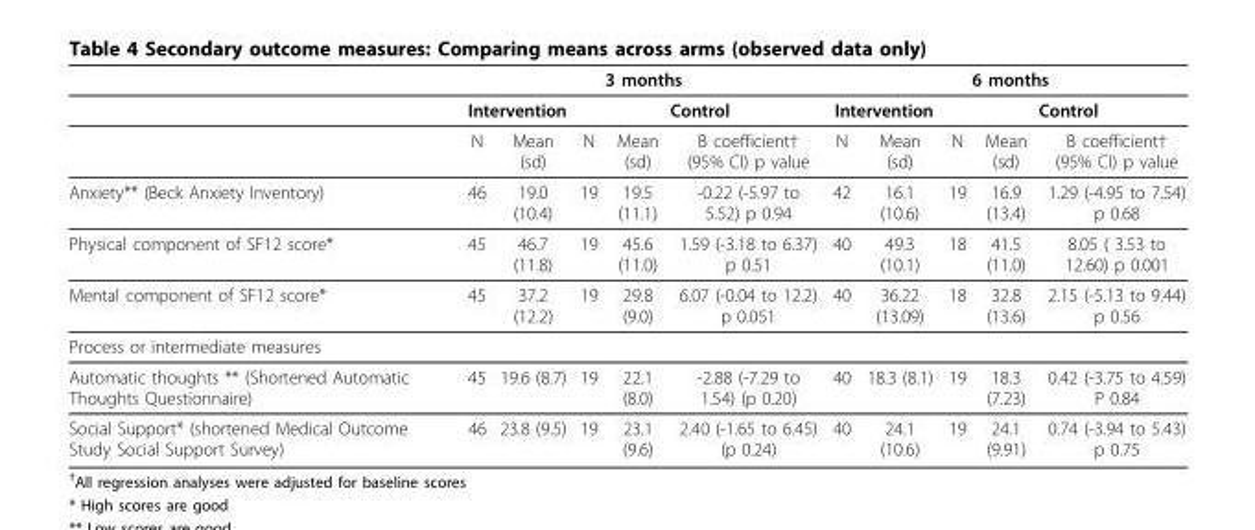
<table><thead><tr><td rowspan="3"></td><td colspan="5">3 months</td><td colspan="5">6 months</td></tr><tr><td colspan="2">Intervention</td><td colspan="3">Control</td><td colspan="2">Intervention</td><td colspan="3">Control</td></tr><tr><td>N</td><td>Mean (sd)</td><td>N</td><td>Mean (sd)</td><td>B coefficient† (95% CI) p value</td><td>N</td><td>Mean (sd)</td><td>N</td><td>Mean (sd)</td><td>B coefficient† (95% CI) p value</td></tr></thead><tbody><tr><td>Anxiety** (Beck Anxiety Inventory)</td><td>46</td><td>19.0 (10.4)</td><td>19</td><td>19.5 (11.1)</td><td>-0.22 (-5.97 to 5.52) p 0.94</td><td>42</td><td>16.1 (10.6)</td><td>19</td><td>16.9 (13.4)</td><td>1.29 (-4.95 to 7.54) p 0.68</td></tr><tr><td>Physical component of SF12 score*</td><td>45</td><td>46.7 (11.8)</td><td>19</td><td>45.6 (11.0)</td><td>1.59 (-3.18 to 6.37) p 0.51</td><td>40</td><td>49.3 (10.1)</td><td>18</td><td>41.5 (11.0)</td><td>8.05 ( 3.53 to 12.60) p 0.001</td></tr><tr><td>Mental component of SF12 score*</td><td>45</td><td>37.2 (12.2)</td><td>19</td><td>29.8 (9.0)</td><td>6.07 (-0.04 to 12.2) p 0.051</td><td>40</td><td>36.22 (13.09)</td><td>18</td><td>32.8 (13.6)</td><td>2.15 (-5.13 to 9.44) p 0.56</td></tr><tr><td colspan="11">Process or intermediate measures</td></tr><tr><td>Automatic thoughts ** (Shortened Automatic Thoughts Questionnaire)</td><td>45</td><td>19.6 (8.7)</td><td>19</td><td>22.1 (8.0)</td><td>-2.88 (-7.29 to 1.54) (p 0.20)</td><td>40</td><td>18.3 (8.1)</td><td>19</td><td>18.3 (7.23)</td><td>0.42 (-3.75 to 4.59) P 0.84</td></tr><tr><td>Social Support* (shortened Medical Outcome Study Social Support Survey)</td><td>46</td><td>23.8 (9.5)</td><td>19</td><td>23.1 (9.6)</td><td>2.40 (-1.65 to 6.45) (p 0.24)</td><td>40</td><td>24.1 (10.6)</td><td>19</td><td>24.1 (9.91)</td><td>0.74 (-3.94 to 5.43) p 0.75</td></tr></tbody></table>